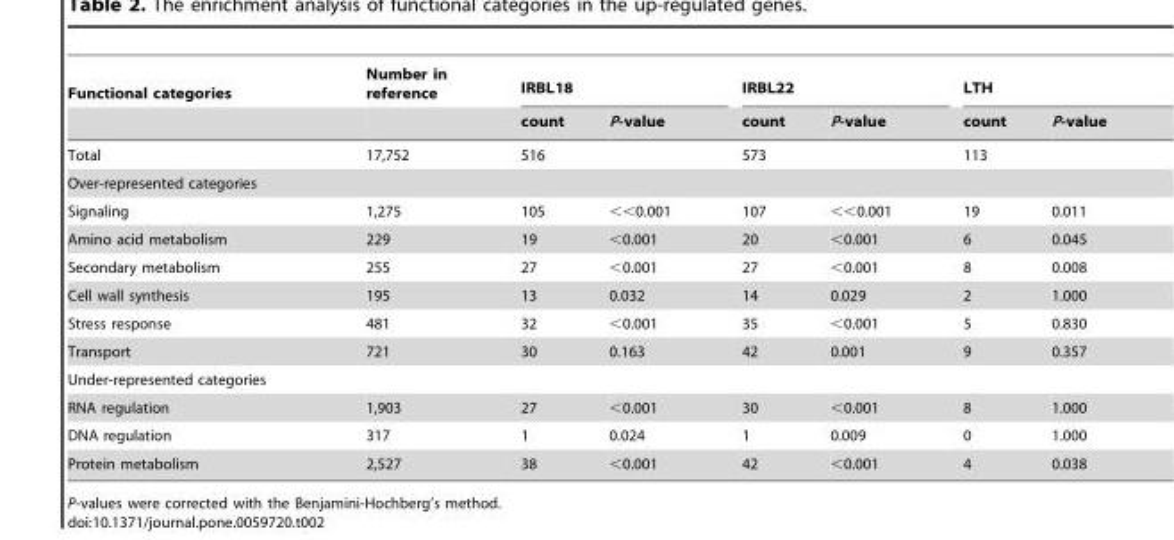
<table><thead><tr><td rowspan="2">Functional categories</td><td rowspan="2">Number in reference</td><td colspan="2">IRBL18</td><td colspan="2">IRBL22</td><td colspan="2">LTH</td></tr><tr><td>count</td><td>P-value</td><td>count</td><td>P-value</td><td>count</td><td>P-value</td></tr></thead><tbody><tr><td>Total</td><td>17,752</td><td>516</td><td></td><td>573</td><td></td><td>113</td><td></td></tr><tr><td colspan="8">Over-represented categories</td></tr><tr><td>Signaling</td><td>1,275</td><td>105</td><td>&lt;&lt;0.001</td><td>107</td><td>&lt;&lt;0.001</td><td>19</td><td>0.011</td></tr><tr><td>Amino acid metabolism</td><td>229</td><td>19</td><td>&lt;0.001</td><td>20</td><td>&lt;0.001</td><td>6</td><td>0.045</td></tr><tr><td>Secondary metabolism</td><td>255</td><td>27</td><td>&lt;0.001</td><td>27</td><td>&lt;0.001</td><td>8</td><td>0.008</td></tr><tr><td>Cell wall synthesis</td><td>195</td><td>13</td><td>0.032</td><td>14</td><td>0.029</td><td>2</td><td>1.000</td></tr><tr><td>Stress response</td><td>481</td><td>32</td><td>&lt;0.001</td><td>35</td><td>&lt;0.001</td><td>5</td><td>0.830</td></tr><tr><td>Transport</td><td>721</td><td>30</td><td>0.163</td><td>42</td><td>0.001</td><td>9</td><td>0.357</td></tr><tr><td colspan="8">Under-represented categories</td></tr><tr><td>RNA regulation</td><td>1,903</td><td>27</td><td>&lt;0.001</td><td>30</td><td>&lt;0.001</td><td>8</td><td>1.000</td></tr><tr><td>DNA regulation</td><td>317</td><td>1</td><td>0.024</td><td>1</td><td>0.009</td><td>0</td><td>1.000</td></tr><tr><td>Protein metabolism</td><td>2,527</td><td>38</td><td>&lt;0.001</td><td>42</td><td>&lt;0.001</td><td>4</td><td>0.038</td></tr></tbody></table>